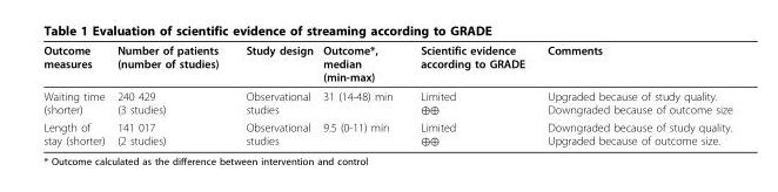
<table><thead><tr><td>Outcome measures</td><td>Number of patients (number of studies)</td><td>Study design</td><td>Outcome*, median (min-max)</td><td>Scientific evidence according to GRADE</td><td>Comments</td></tr></thead><tbody><tr><td>Waiting time (shorter)</td><td>240 429 (3 studies)</td><td>Observational studies</td><td>31 (14-48) min</td><td>Limited ⊕⊕</td><td>Upgraded because of study quality. Downgraded because of outcome size</td></tr><tr><td>Length of stay (shorter)</td><td>141 017 (2 studies)</td><td>Observational studies</td><td>9.5 (0-11) min</td><td>Limited ⊕⊕</td><td>Downgraded because of study quality. Upgraded because of outcome size.</td></tr></tbody></table>